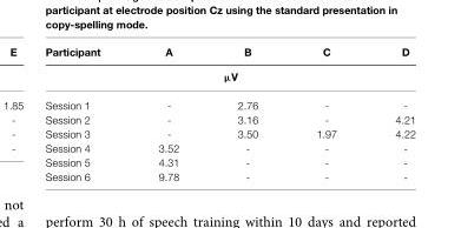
<table><thead><tr><td>Participant</td><td>A</td><td>B</td><td>C</td><td>D</td></tr><tr><td colspan="5">µV</td></tr></thead><tbody><tr><td>Session 1</td><td>-</td><td>2.76</td><td>-</td><td>-</td></tr><tr><td>Session 2</td><td>-</td><td>3.16</td><td>-</td><td>4.21</td></tr><tr><td>Session 3</td><td>-</td><td>3.50</td><td>1.97</td><td>4.22</td></tr><tr><td>Session 4</td><td>3.52</td><td>-</td><td>-</td><td>-</td></tr><tr><td>Session 5</td><td>4.31</td><td>-</td><td>-</td><td>-</td></tr><tr><td>Session 6</td><td>9.78</td><td>-</td><td>-</td><td>-</td></tr></tbody></table>